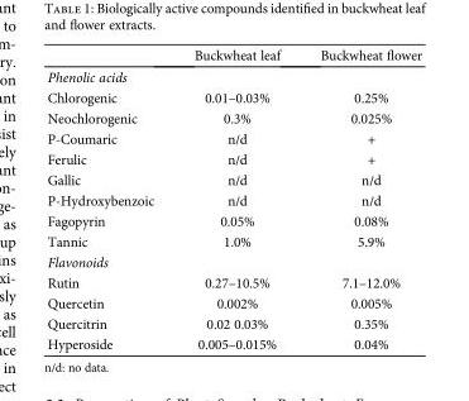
<table><thead><tr><td></td><td>Buckwheat leaf</td><td>Buckwheat flower</td></tr></thead><tbody><tr><td colspan="3">Phenolic acids</td></tr><tr><td>Chlorogenic</td><td>0.01–0.03%</td><td>0.25%</td></tr><tr><td>Neochlorogenic</td><td>0.3%</td><td>0.025%</td></tr><tr><td>P-Coumaric</td><td>n/d</td><td>+</td></tr><tr><td>Ferulic</td><td>n/d</td><td>+</td></tr><tr><td>Gallic</td><td>n/d</td><td>n/d</td></tr><tr><td>P-Hydroxybenzoic</td><td>n/d</td><td>n/d</td></tr><tr><td>Fagopyrin</td><td>0.05%</td><td>0.08%</td></tr><tr><td>Tannic</td><td>1.0%</td><td>5.9%</td></tr><tr><td colspan="3">Flavonoids</td></tr><tr><td>Rutin</td><td>0.27–10.5%</td><td>7.1–12.0%</td></tr><tr><td>Quercetin</td><td>0.002%</td><td>0.005%</td></tr><tr><td>Quercitrin</td><td>0.02 0.03%</td><td>0.35%</td></tr><tr><td>Hyperoside</td><td>0.005–0.015%</td><td>0.04%</td></tr></tbody></table>